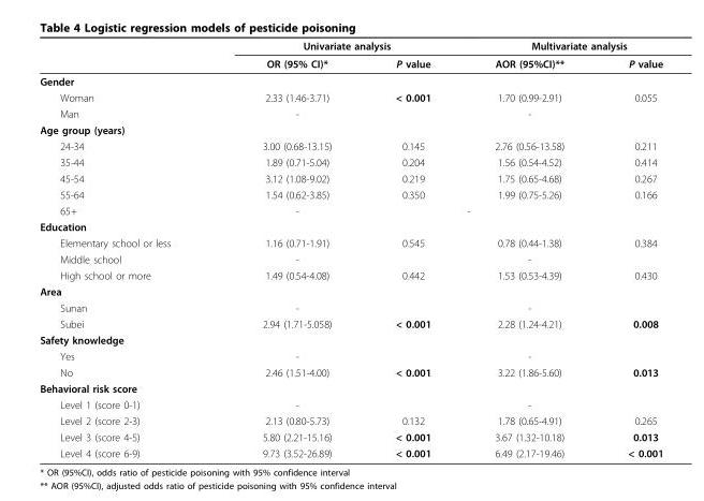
<table><thead><tr><td rowspan="2"></td><td colspan="2">Univariate analysis</td><td colspan="2">Multivariate analysis</td></tr><tr><td>OR (95% CI)*</td><td>P value</td><td>AOR (95%CI)**</td><td>P value</td></tr></thead><tbody><tr><td colspan="5">Gender</td></tr><tr><td>Woman</td><td>2.33 (1.46-3.71)</td><td>&lt; 0.001</td><td>1.70 (0.99-2.91)</td><td>0.055</td></tr><tr><td>Man</td><td>-</td><td></td><td>-</td><td></td></tr><tr><td colspan="5">Age group (years)</td></tr><tr><td>24-34</td><td>3.00 (0.68-13.15)</td><td>0.145</td><td>2.76 (0.56-13.58)</td><td>0.211</td></tr><tr><td>35-44</td><td>1.89 (0.71-5.04)</td><td>0.204</td><td>1.56 (0.54-4.52)</td><td>0.414</td></tr><tr><td>45-54</td><td>3.12 (1.08-9.02)</td><td>0.219</td><td>1.75 (0.65-4.68)</td><td>0.267</td></tr><tr><td>55-64</td><td>1.54 (0.62-3.85)</td><td>0.350</td><td>1.99 (0.75-5.26)</td><td>0.166</td></tr><tr><td>65+</td><td>-</td><td></td><td>-</td><td></td></tr><tr><td colspan="5">Education</td></tr><tr><td>Elementary school or less</td><td>1.16 (0.71-1.91)</td><td>0.545</td><td>0.78 (0.44-1.38)</td><td>0.384</td></tr><tr><td>Middle school</td><td>-</td><td></td><td>-</td><td></td></tr><tr><td>High school or more</td><td>1.49 (0.54-4.08)</td><td>0.442</td><td>1.53 (0.53-4.39)</td><td>0.430</td></tr><tr><td colspan="5">Area</td></tr><tr><td>Sunan</td><td>-</td><td></td><td>-</td><td></td></tr><tr><td>Subei</td><td>2.94 (1.71-5.058)</td><td>&lt; 0.001</td><td>2.28 (1.24-4.21)</td><td>0.008</td></tr><tr><td colspan="5">Safety knowledge</td></tr><tr><td>Yes</td><td>-</td><td></td><td>-</td><td></td></tr><tr><td>No</td><td>2.46 (1.51-4.00)</td><td>&lt; 0.001</td><td>3.22 (1.86-5.60)</td><td>0.013</td></tr><tr><td colspan="5">Behavioral risk score</td></tr><tr><td>Level 1 (score 0-1)</td><td>-</td><td></td><td>-</td><td></td></tr><tr><td>Level 2 (score 2-3)</td><td>2.13 (0.80-5.73)</td><td>0.132</td><td>1.78 (0.65-4.91)</td><td>0.265</td></tr><tr><td>Level 3 (score 4-5)</td><td>5.80 (2.21-15.16)</td><td>&lt; 0.001</td><td>3.67 (1.32-10.18)</td><td>0.013</td></tr><tr><td>Level 4 (score 6-9)</td><td>9.73 (3.52-26.89)</td><td>&lt; 0.001</td><td>6.49 (2.17-19.46)</td><td>&lt; 0.001</td></tr></tbody></table>